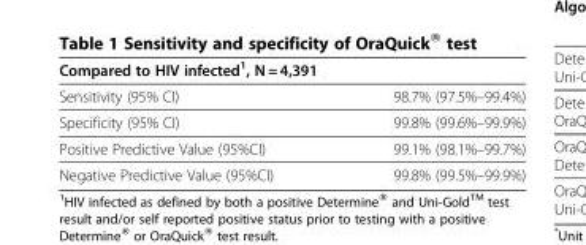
<table><thead><tr><td colspan="2">Compared to HIV infected<sup>1</sup>, N = 4,391</td></tr><tr><td>Sensitivity (95% CI)</td><td>98.7% (97.5%–99.4%)</td></tr></thead><tbody><tr><td>Specificity (95% CI)</td><td>99.8% (99.6%–99.9%)</td></tr><tr><td>Positive Predictive Value (95%CI)</td><td>99.1% (98.1%–99.7%)</td></tr><tr><td>Negative Predictive Value (95%CI)</td><td>99.8% (99.5%–99.9%)</td></tr></tbody></table>